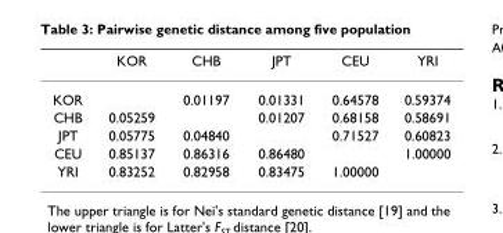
<table><thead><tr><td></td><td>KOR</td><td>CHB</td><td>JPT</td><td>CEU</td><td>YRI</td></tr></thead><tbody><tr><td>KOR</td><td></td><td>0.01197</td><td>0.01331</td><td>0.64578</td><td>0.59374</td></tr><tr><td>CHB</td><td>0.05259</td><td></td><td>0.01207</td><td>0.68158</td><td>0.58691</td></tr><tr><td>JPT</td><td>0.05775</td><td>0.04840</td><td></td><td>0.71527</td><td>0.60823</td></tr><tr><td>CEU</td><td>0.85137</td><td>0.86316</td><td>0.86480</td><td></td><td>1.00000</td></tr><tr><td>YRI</td><td>0.83252</td><td>0.82958</td><td>0.83475</td><td>1.00000</td><td></td></tr></tbody></table>